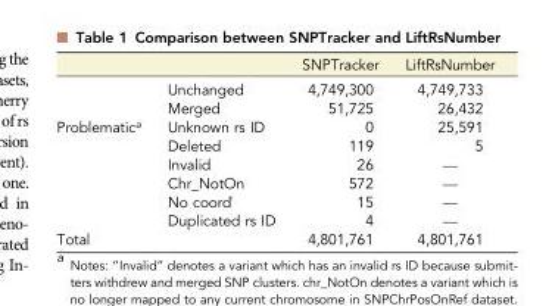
<table><thead><tr><td></td><td></td><td>SNPTracker</td><td>LiftRsNumber</td></tr></thead><tbody><tr><td></td><td>Unchanged</td><td>4,749,300</td><td>4,749,733</td></tr><tr><td></td><td>Merged</td><td>51,725</td><td>26,432</td></tr><tr><td rowspan="6">Problematic<sup>a</sup></td><td>Unknown rs ID</td><td>0</td><td>25,591</td></tr><tr><td>Deleted</td><td>119</td><td>5</td></tr><tr><td>Invalid</td><td>26</td><td>—</td></tr><tr><td>Chr_NotOn</td><td>572</td><td>—</td></tr><tr><td>No coord˙</td><td>15</td><td>—</td></tr><tr><td>Duplicated rs ID</td><td>4</td><td>—</td></tr><tr><td>Total</td><td></td><td>4,801,761</td><td>4,801,761</td></tr></tbody></table>